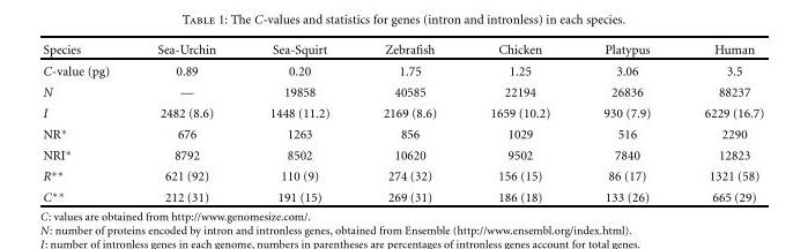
<table><thead><tr><td>Species</td><td>Sea-Urchin</td><td>Sea-Squirt</td><td>Zebrafish</td><td>Chicken</td><td>Platypus</td><td>Human</td></tr></thead><tbody><tr><td>C-value (pg)</td><td>0.89</td><td>0.20</td><td>1.75</td><td>1.25</td><td>3.06</td><td>3.5</td></tr><tr><td>N</td><td>—</td><td>19858</td><td>40585</td><td>22194</td><td>26836</td><td>88237</td></tr><tr><td>I</td><td>2482 (8.6)</td><td>1448 (11.2)</td><td>2169 (8.6)</td><td>1659 (10.2)</td><td>930 (7.9)</td><td>6229 (16.7)</td></tr><tr><td>NR∗</td><td>676</td><td>1263</td><td>856</td><td>1029</td><td>516</td><td>2290</td></tr><tr><td>NRI∗</td><td>8792</td><td>8502</td><td>10620</td><td>9502</td><td>7840</td><td>12823</td></tr><tr><td>R∗∗</td><td>621 (92)</td><td>110 (9)</td><td>274 (32)</td><td>156 (15)</td><td>86 (17)</td><td>1321 (58)</td></tr><tr><td>C∗∗</td><td>212 (31)</td><td>191 (15)</td><td>269 (31)</td><td>186 (18)</td><td>133 (26)</td><td>665 (29)</td></tr></tbody></table>